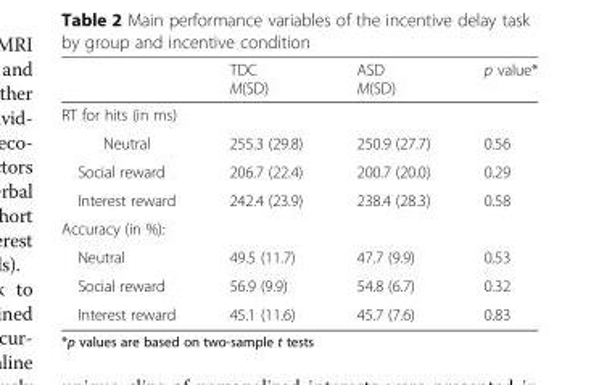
<table><thead><tr><td></td><td>TDC M(SD)</td><td>ASD M(SD)</td><td>p value*</td></tr></thead><tbody><tr><td colspan="4">RT for hits (in ms)</td></tr><tr><td>Neutral</td><td>255.3 (29.8)</td><td>250.9 (27.7)</td><td>0.56</td></tr><tr><td>Social reward</td><td>206.7 (22.4)</td><td>200.7 (20.0)</td><td>0.29</td></tr><tr><td>Interest reward</td><td>242.4 (23.9)</td><td>238.4 (28.3)</td><td>0.58</td></tr><tr><td colspan="4">Accuracy (in %):</td></tr><tr><td>Neutral</td><td>49.5 (11.7)</td><td>47.7 (9.9)</td><td>0.53</td></tr><tr><td>Social reward</td><td>56.9 (9.9)</td><td>54.8 (6.7)</td><td>0.32</td></tr><tr><td>Interest reward</td><td>45.1 (11.6)</td><td>45.7 (7.6)</td><td>0.83</td></tr></tbody></table>